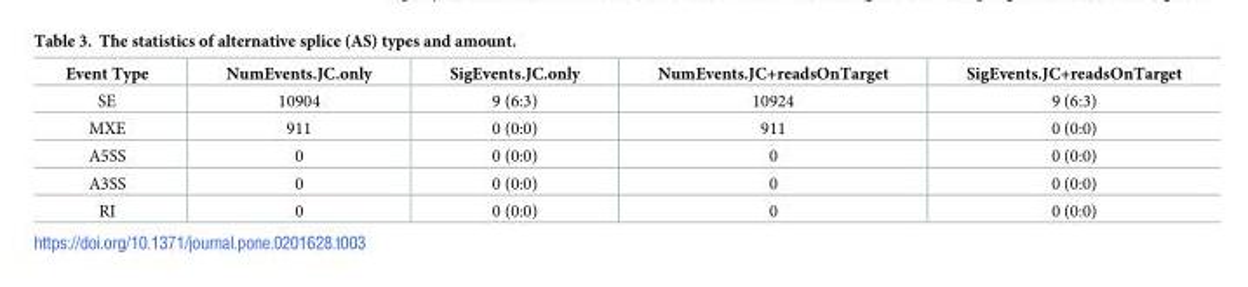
<table><thead><tr><td>Event Type</td><td>NumEvents.JC.only</td><td>SigEvents.JC.only</td><td>NumEvents.JC+readsOnTarget</td><td>SigEvents.JC+readsOnTarget</td></tr></thead><tbody><tr><td>SE</td><td>10904</td><td>9 (6:3)</td><td>10924</td><td>9 (6:3)</td></tr><tr><td>MXE</td><td>911</td><td>0 (0:0)</td><td>911</td><td>0 (0:0)</td></tr><tr><td>A5SS</td><td>0</td><td>0 (0:0)</td><td>0</td><td>0 (0:0)</td></tr><tr><td>A3SS</td><td>0</td><td>0 (0:0)</td><td>0</td><td>0 (0:0)</td></tr><tr><td>RI</td><td>0</td><td>0 (0:0)</td><td>0</td><td>0 (0:0)</td></tr></tbody></table>